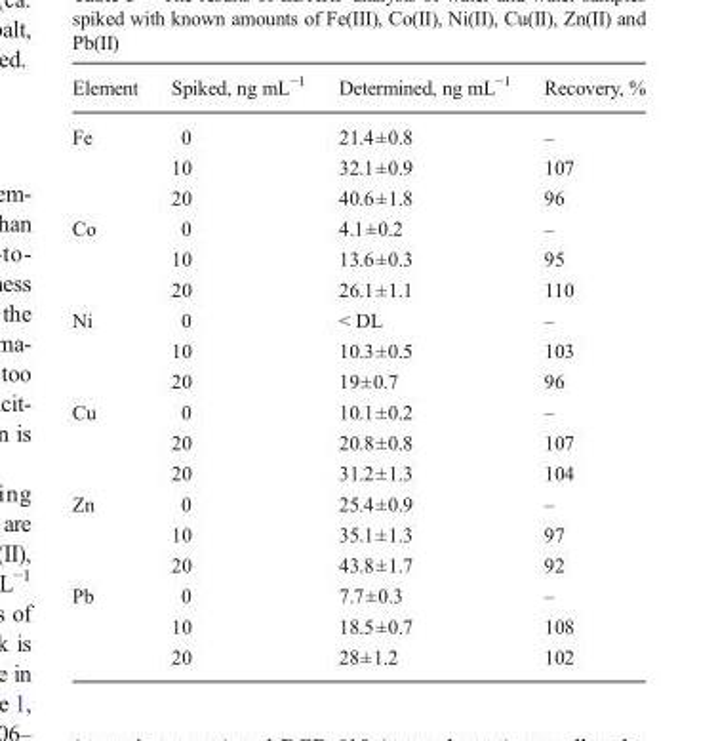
<table><thead><tr><td>Element</td><td>Spiked, ng mL<sup>−1</sup></td><td>Determined, ng mL<sup>−1</sup></td><td>Recovery, %</td></tr></thead><tbody><tr><td rowspan="3">Fe</td><td>0</td><td>21.4±0.8</td><td>–</td></tr><tr><td>10</td><td>32.1±0.9</td><td>107</td></tr><tr><td>20</td><td>40.6±1.8</td><td>96</td></tr><tr><td rowspan="3">Co</td><td>0</td><td>4.1±0.2</td><td>–</td></tr><tr><td>10</td><td>13.6±0.3</td><td>95</td></tr><tr><td>20</td><td>26.1±1.1</td><td>110</td></tr><tr><td rowspan="3">Ni</td><td>0</td><td>&lt; DL</td><td>–</td></tr><tr><td>10</td><td>10.3±0.5</td><td>103</td></tr><tr><td>20</td><td>19±0.7</td><td>96</td></tr><tr><td rowspan="3">Cu</td><td>0</td><td>10.1±0.2</td><td>–</td></tr><tr><td>20</td><td>20.8±0.8</td><td>107</td></tr><tr><td>20</td><td>31.2±1.3</td><td>104</td></tr><tr><td rowspan="3">Zn</td><td>0</td><td>25.4±0.9</td><td>–</td></tr><tr><td>10</td><td>35.1±1.3</td><td>97</td></tr><tr><td>20</td><td>43.8±1.7</td><td>92</td></tr><tr><td rowspan="3">Pb</td><td>0</td><td>7.7±0.3</td><td>–</td></tr><tr><td>10</td><td>18.5±0.7</td><td>108</td></tr><tr><td>20</td><td>28±1.2</td><td>102</td></tr></tbody></table>